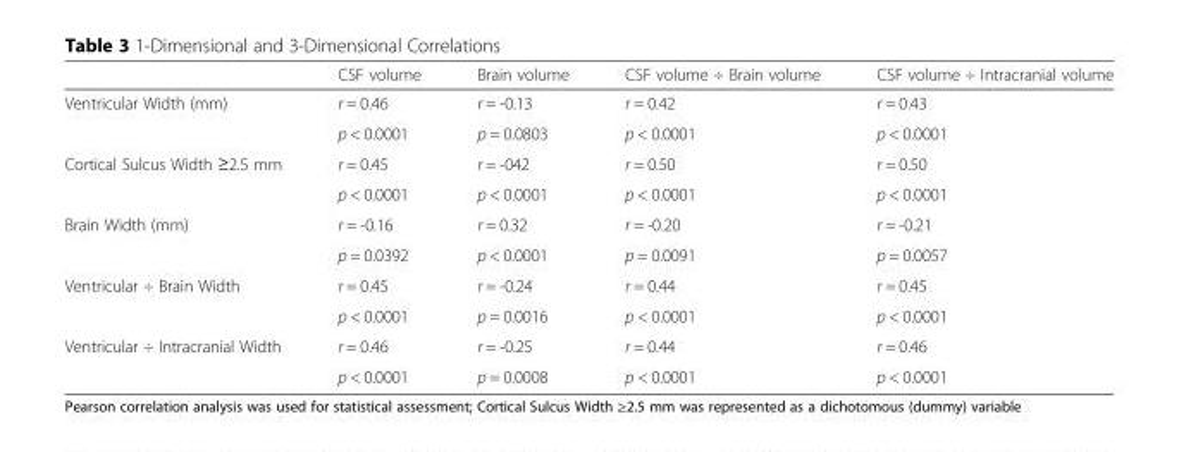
<table><thead><tr><td></td><td>CSF volume</td><td>Brain volume</td><td>CSF volume ÷ Brain volume</td><td>CSF volume ÷ Intracranial volume</td></tr></thead><tbody><tr><td rowspan="2">Ventricular Width (mm)</td><td>r = 0.46</td><td>r = -0.13</td><td>r = 0.42</td><td>r = 0.43</td></tr><tr><td>p &lt; 0.0001</td><td>p = 0.0803</td><td>p &lt; 0.0001</td><td>p &lt; 0.0001</td></tr><tr><td rowspan="2">Cortical Sulcus Width ≥2.5 mm</td><td>r = 0.45</td><td>r = -042</td><td>r = 0.50</td><td>r = 0.50</td></tr><tr><td>p &lt; 0.0001</td><td>p &lt; 0.0001</td><td>p &lt; 0.0001</td><td>p &lt; 0.0001</td></tr><tr><td rowspan="2">Brain Width (mm)</td><td>r = -0.16</td><td>r = 0.32</td><td>r = -0.20</td><td>r = -0.21</td></tr><tr><td>p = 0.0392</td><td>p &lt; 0.0001</td><td>p = 0.0091</td><td>p = 0.0057</td></tr><tr><td rowspan="2">Ventricular ÷ Brain Width</td><td>r = 0.45</td><td>r = -0.24</td><td>r = 0.44</td><td>r = 0.45</td></tr><tr><td>p &lt; 0.0001</td><td>p = 0.0016</td><td>p &lt; 0.0001</td><td>p &lt; 0.0001</td></tr><tr><td rowspan="2">Ventricular ÷ Intracranial Width</td><td>r = 0.46</td><td>r = -0.25</td><td>r = 0.44</td><td>r = 0.46</td></tr><tr><td>p &lt; 0.0001</td><td>p = 0.0008</td><td>p &lt; 0.0001</td><td>p &lt; 0.0001</td></tr></tbody></table>